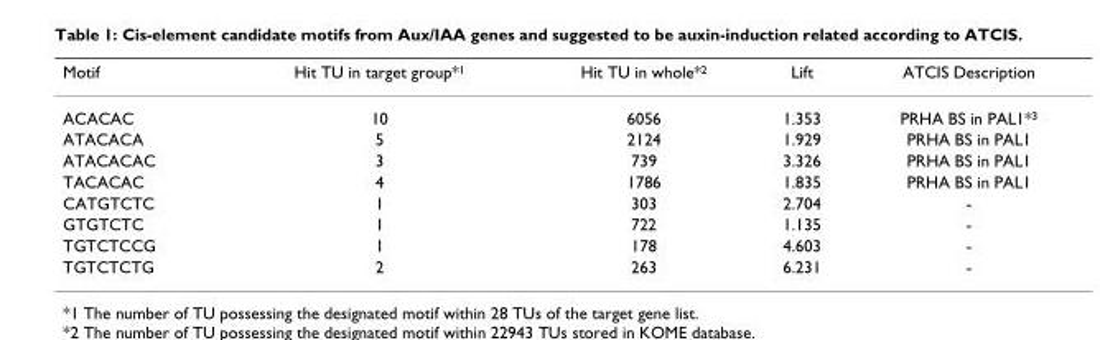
<table><thead><tr><td>Motif</td><td>Hit TU in target group*<sup>1</sup></td><td>Hit TU in whole*<sup>2</sup></td><td>Lift</td><td>ATCIS Description</td></tr></thead><tbody><tr><td>ACACAC</td><td>10</td><td>6056</td><td>1.353</td><td>PRHA BS in PAL1*<sup>3</sup></td></tr><tr><td>ATACACA</td><td>5</td><td>2124</td><td>1.929</td><td>PRHA BS in PAL1</td></tr><tr><td>ATACACAC</td><td>3</td><td>739</td><td>3.326</td><td>PRHA BS in PAL1</td></tr><tr><td>TACACAC</td><td>4</td><td>1786</td><td>1.835</td><td>PRHA BS in PAL1</td></tr><tr><td>CATGTCTC</td><td>1</td><td>303</td><td>2.704</td><td>-</td></tr><tr><td>GTGTCTC</td><td>1</td><td>722</td><td>1.135</td><td>-</td></tr><tr><td>TGTCTCCG</td><td>1</td><td>178</td><td>4.603</td><td>-</td></tr><tr><td>TGTCTCTG</td><td>2</td><td>263</td><td>6.231</td><td>-</td></tr></tbody></table>